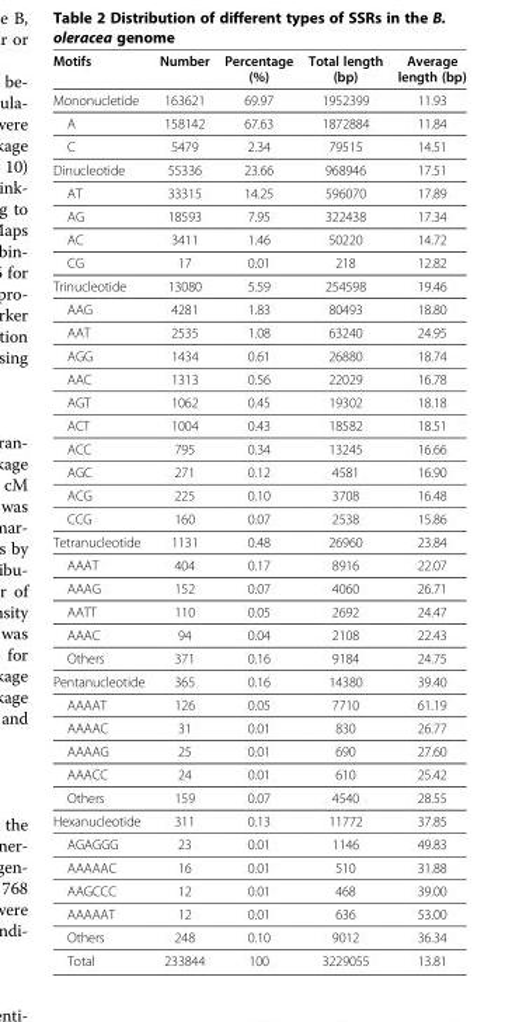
<table><thead><tr><td>Motifs</td><td>Number</td><td>Percentage (%)</td><td>Total length (bp)</td><td>Average length (bp)</td></tr></thead><tbody><tr><td>Mononucletide</td><td>163621</td><td>69.97</td><td>1952399</td><td>11.93</td></tr><tr><td>A</td><td>158142</td><td>67.63</td><td>1872884</td><td>11.84</td></tr><tr><td>C</td><td>5479</td><td>2.34</td><td>79515</td><td>14.51</td></tr><tr><td>Dinucleotide</td><td>55336</td><td>23.66</td><td>968946</td><td>17.51</td></tr><tr><td>AT</td><td>33315</td><td>14.25</td><td>596070</td><td>17.89</td></tr><tr><td>AG</td><td>18593</td><td>7.95</td><td>322438</td><td>17.34</td></tr><tr><td>AC</td><td>3411</td><td>1.46</td><td>50220</td><td>14.72</td></tr><tr><td>CG</td><td>17</td><td>0.01</td><td>218</td><td>12.82</td></tr><tr><td>Trinucleotide</td><td>13080</td><td>5.59</td><td>254598</td><td>19.46</td></tr><tr><td>AAG</td><td>4281</td><td>1.83</td><td>80493</td><td>18.80</td></tr><tr><td>AAT</td><td>2535</td><td>1.08</td><td>63240</td><td>24.95</td></tr><tr><td>AGG</td><td>1434</td><td>0.61</td><td>26880</td><td>18.74</td></tr><tr><td>AAC</td><td>1313</td><td>0.56</td><td>22029</td><td>16.78</td></tr><tr><td>AGT</td><td>1062</td><td>0.45</td><td>19302</td><td>18.18</td></tr><tr><td>ACT</td><td>1004</td><td>0.43</td><td>18582</td><td>18.51</td></tr><tr><td>ACC</td><td>795</td><td>0.34</td><td>13245</td><td>16.66</td></tr><tr><td>AGC</td><td>271</td><td>0.12</td><td>4581</td><td>16.90</td></tr><tr><td>ACG</td><td>225</td><td>0.10</td><td>3708</td><td>16.48</td></tr><tr><td>CCG</td><td>160</td><td>0.07</td><td>2538</td><td>15.86</td></tr><tr><td>Tetranucleotide</td><td>1131</td><td>0.48</td><td>26960</td><td>23.84</td></tr><tr><td>AAAT</td><td>404</td><td>0.17</td><td>8916</td><td>22.07</td></tr><tr><td>AAAG</td><td>152</td><td>0.07</td><td>4060</td><td>26.71</td></tr><tr><td>AATT</td><td>110</td><td>0.05</td><td>2692</td><td>24.47</td></tr><tr><td>AAAC</td><td>94</td><td>0.04</td><td>2108</td><td>22.43</td></tr><tr><td>Others</td><td>371</td><td>0.16</td><td>9184</td><td>24.75</td></tr><tr><td>Pentanucleotide</td><td>365</td><td>0.16</td><td>14380</td><td>39.40</td></tr><tr><td>AAAAT</td><td>126</td><td>0.05</td><td>7710</td><td>61.19</td></tr><tr><td>AAAAC</td><td>31</td><td>0.01</td><td>830</td><td>26.77</td></tr><tr><td>AAAAG</td><td>25</td><td>0.01</td><td>690</td><td>27.60</td></tr><tr><td>AAACC</td><td>24</td><td>0.01</td><td>610</td><td>25.42</td></tr><tr><td>Others</td><td>159</td><td>0.07</td><td>4540</td><td>28.55</td></tr><tr><td>Hexanucleotide</td><td>311</td><td>0.13</td><td>11772</td><td>37.85</td></tr><tr><td>AGAGGG</td><td>23</td><td>0.01</td><td>1146</td><td>49.83</td></tr><tr><td>AAAAAC</td><td>16</td><td>0.01</td><td>510</td><td>31.88</td></tr><tr><td>AAGCCC</td><td>12</td><td>0.01</td><td>468</td><td>39.00</td></tr><tr><td>AAAAAT</td><td>12</td><td>0.01</td><td>636</td><td>53.00</td></tr><tr><td>Others</td><td>248</td><td>0.10</td><td>9012</td><td>36.34</td></tr><tr><td>Total</td><td>233844</td><td>100</td><td>3229055</td><td>13.81</td></tr></tbody></table>